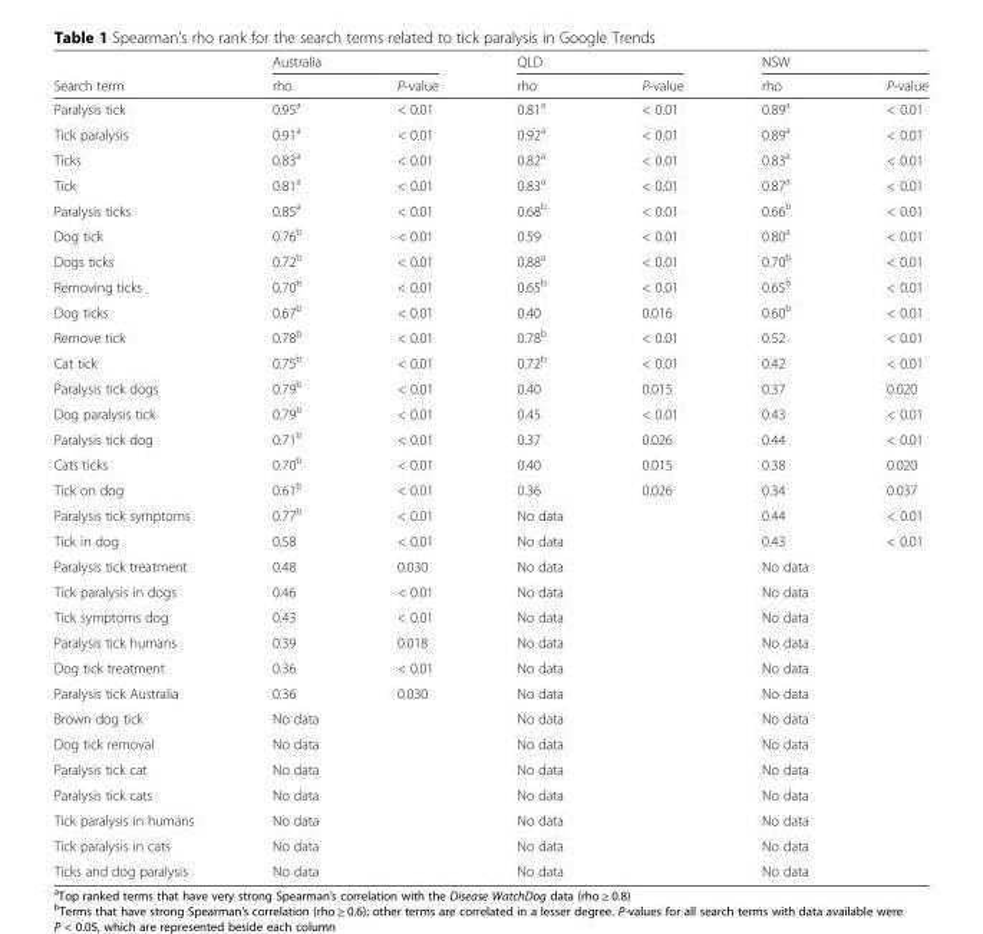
<table><thead><tr><td rowspan="2">Search term</td><td colspan="2">Australia</td><td colspan="2">QLD</td><td colspan="2">NSW</td></tr><tr><td>rho</td><td>P-value</td><td>rho</td><td>P-value</td><td>rho</td><td>P-value</td></tr></thead><tbody><tr><td>Paralysis tick</td><td>0.95<sup>a</sup></td><td>&lt; 0.01</td><td>0.81<sup>a</sup></td><td>&lt; 0.01</td><td>0.89<sup>a</sup></td><td>&lt; 0.01</td></tr><tr><td>Tick paralysis</td><td>0.91<sup>a</sup></td><td>&lt; 0.01</td><td>0.92<sup>a</sup></td><td>&lt; 0.01</td><td>0.89<sup>a</sup></td><td>&lt; 0.01</td></tr><tr><td>Ticks</td><td>0.83<sup>a</sup></td><td>&lt; 0.01</td><td>0.82<sup>a</sup></td><td>&lt; 0.01</td><td>0.83<sup>a</sup></td><td>&lt; 0.01</td></tr><tr><td>Tick</td><td>0.81<sup>a</sup></td><td>&lt; 0.01</td><td>0.83<sup>a</sup></td><td>&lt; 0.01</td><td>0.87<sup>a</sup></td><td>&lt; 0.01</td></tr><tr><td>Paralysis ticks</td><td>0.85<sup>a</sup></td><td>&lt; 0.01</td><td>0.68<sup>b</sup></td><td>&lt; 0.01</td><td>0.66<sup>b</sup></td><td>&lt; 0.01</td></tr><tr><td>Dog tick</td><td>0.76<sup>b</sup></td><td>&lt; 0.01</td><td>0.59</td><td>&lt; 0.01</td><td>0.80<sup>a</sup></td><td>&lt; 0.01</td></tr><tr><td>Dogs ticks</td><td>0.72<sup>b</sup></td><td>&lt; 0.01</td><td>0.88<sup>a</sup></td><td>&lt; 0.01</td><td>0.70<sup>b</sup></td><td>&lt; 0.01</td></tr><tr><td>Removing ticks</td><td>0.70<sup>b</sup></td><td>&lt; 0.01</td><td>0.65<sup>b</sup></td><td>&lt; 0.01</td><td>0.65<sup>b</sup></td><td>&lt; 0.01</td></tr><tr><td>Dog ticks</td><td>0.67<sup>b</sup></td><td>&lt; 0.01</td><td>0.40</td><td>0.016</td><td>0.60<sup>b</sup></td><td>&lt; 0.01</td></tr><tr><td>Remove tick</td><td>0.78<sup>b</sup></td><td>&lt; 0.01</td><td>0.78<sup>b</sup></td><td>&lt; 0.01</td><td>0.52</td><td>&lt; 0.01</td></tr><tr><td>Cat tick</td><td>0.75<sup>b</sup></td><td>&lt; 0.01</td><td>0.72<sup>b</sup></td><td>&lt; 0.01</td><td>0.42</td><td>&lt; 0.01</td></tr><tr><td>Paralysis tick dogs</td><td>0.79<sup>b</sup></td><td>&lt; 0.01</td><td>0.40</td><td>0.015</td><td>0.37</td><td>0.020</td></tr><tr><td>Dog paralysis tick</td><td>0.79<sup>b</sup></td><td>&lt; 0.01</td><td>0.45</td><td>&lt; 0.01</td><td>0.43</td><td>&lt; 0.01</td></tr><tr><td>Paralysis tick dog</td><td>0.71<sup>b</sup></td><td>&lt; 0.01</td><td>0.37</td><td>0.026</td><td>0.44</td><td>&lt; 0.01</td></tr><tr><td>Cats ticks</td><td>0.70<sup>b</sup></td><td>&lt; 0.01</td><td>0.40</td><td>0.015</td><td>0.38</td><td>0.020</td></tr><tr><td>Tick on dog</td><td>0.61<sup>b</sup></td><td>&lt; 0.01</td><td>0.36</td><td>0.026</td><td>0.34</td><td>0.037</td></tr><tr><td>Paralysis tick symptoms</td><td>0.77<sup>b</sup></td><td>&lt; 0.01</td><td>No data</td><td></td><td>0.44</td><td>&lt; 0.01</td></tr><tr><td>Tick in dog</td><td>0.58</td><td>&lt; 0.01</td><td>No data</td><td></td><td>0.43</td><td>&lt; 0.01</td></tr><tr><td>Paralysis tick treatment</td><td>0.48</td><td>0.030</td><td>No data</td><td></td><td>No data</td><td></td></tr><tr><td>Tick paralysis in dogs</td><td>0.46</td><td>&lt; 0.01</td><td>No data</td><td></td><td>No data</td><td></td></tr><tr><td>Tick symptoms dog</td><td>0.43</td><td>&lt; 0.01</td><td>No data</td><td></td><td>No data</td><td></td></tr><tr><td>Paralysis tick humans</td><td>0.39</td><td>0.018</td><td>No data</td><td></td><td>No data</td><td></td></tr><tr><td>Dog tick treatment</td><td>0.36</td><td>&lt; 0.01</td><td>No data</td><td></td><td>No data</td><td></td></tr><tr><td>Paralysis tick Australia</td><td>0.36</td><td>0.030</td><td>No data</td><td></td><td>No data</td><td></td></tr><tr><td>Brown dog tick</td><td>No data</td><td></td><td>No data</td><td></td><td>No data</td><td></td></tr><tr><td>Dog tick removal</td><td>No data</td><td></td><td>No data</td><td></td><td>No data</td><td></td></tr><tr><td>Paralysis tick cat</td><td>No data</td><td></td><td>No data</td><td></td><td>No data</td><td></td></tr><tr><td>Paralysis tick cats</td><td>No data</td><td></td><td>No data</td><td></td><td>No data</td><td></td></tr><tr><td>Tick paralysis in humans</td><td>No data</td><td></td><td>No data</td><td></td><td>No data</td><td></td></tr><tr><td>Tick paralysis in cats</td><td>No data</td><td></td><td>No data</td><td></td><td>No data</td><td></td></tr><tr><td>Ticks and dog paralysis</td><td>No data</td><td></td><td>No data</td><td></td><td>No data</td><td></td></tr></tbody></table>